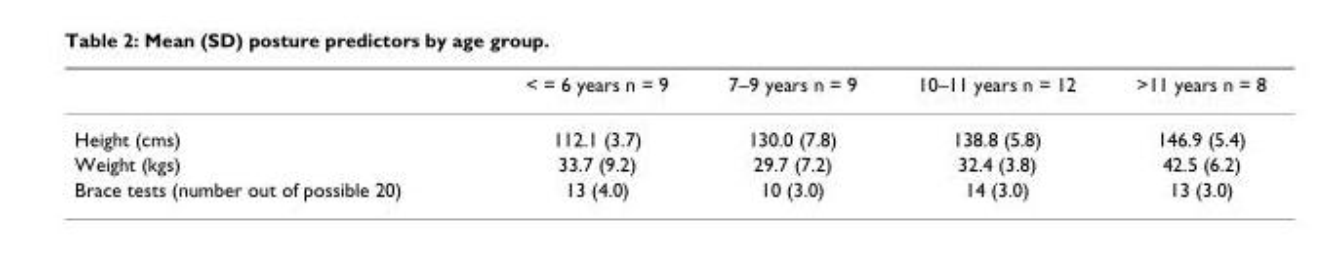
<table><thead><tr><td></td><td>&lt; = 6 years n = 9</td><td>7–9 years n = 9</td><td>10–11 years n = 12</td><td>&gt;11 years n = 8</td></tr></thead><tbody><tr><td>Height (cms)</td><td>112.1 (3.7)</td><td>130.0 (7.8)</td><td>138.8 (5.8)</td><td>146.9 (5.4)</td></tr><tr><td>Weight (kgs)</td><td>33.7 (9.2)</td><td>29.7 (7.2)</td><td>32.4 (3.8)</td><td>42.5 (6.2)</td></tr><tr><td>Brace tests (number out of possible 20)</td><td>13 (4.0)</td><td>10 (3.0)</td><td>14 (3.0)</td><td>13 (3.0)</td></tr></tbody></table>